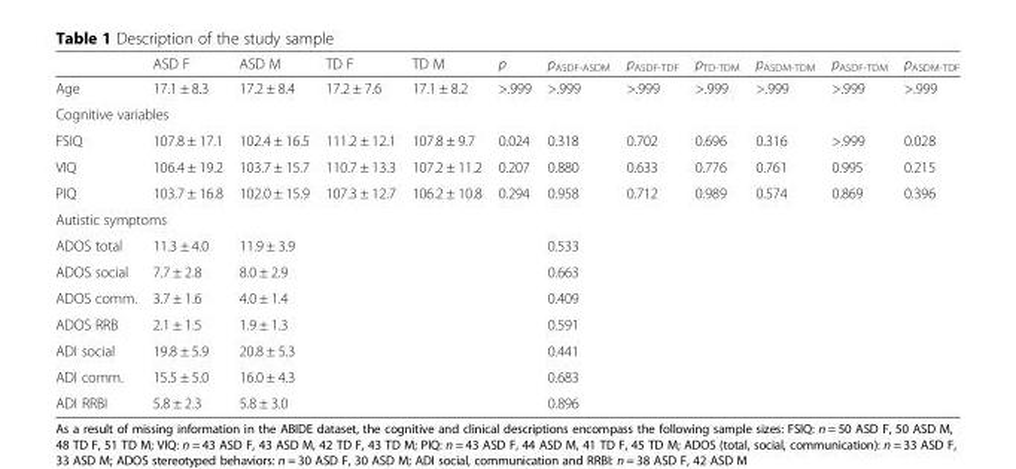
<table><thead><tr><td></td><td>ASD F</td><td>ASD M</td><td>TD F</td><td>TD M</td><td>p</td><td>p<sub>ASDF-ASDM</sub></td><td>p<sub>ASDF-TDF</sub></td><td>p<sub>TD-TDM</sub></td><td>p<sub>ASDM-TDM</sub></td><td>p<sub>ASDF-TDM</sub></td><td>p<sub>ASDM-TDF</sub></td></tr></thead><tbody><tr><td>Age</td><td>17.1 ± 8.3</td><td>17.2 ± 8.4</td><td>17.2 ± 7.6</td><td>17.1 ± 8.2</td><td>&gt;.999</td><td>&gt;.999</td><td>&gt;.999</td><td>&gt;.999</td><td>&gt;.999</td><td>&gt;.999</td><td>&gt;.999</td></tr><tr><td colspan="12">Cognitive variables</td></tr><tr><td>FSIQ</td><td>107.8 ± 17.1</td><td>102.4 ± 16.5</td><td>111.2 ± 12.1</td><td>107.8 ± 9.7</td><td>0.024</td><td>0.318</td><td>0.702</td><td>0.696</td><td>0.316</td><td>&gt;.999</td><td>0.028</td></tr><tr><td>VIQ</td><td>106.4 ± 19.2</td><td>103.7 ± 15.7</td><td>110.7 ± 13.3</td><td>107.2 ± 11.2</td><td>0.207</td><td>0.880</td><td>0.633</td><td>0.776</td><td>0.761</td><td>0.995</td><td>0.215</td></tr><tr><td>PIQ</td><td>103.7 ± 16.8</td><td>102.0 ± 15.9</td><td>107.3 ± 12.7</td><td>106.2 ± 10.8</td><td>0.294</td><td>0.958</td><td>0.712</td><td>0.989</td><td>0.574</td><td>0.869</td><td>0.396</td></tr><tr><td colspan="12">Autistic symptoms</td></tr><tr><td>ADOS total</td><td>11.3 ± 4.0</td><td>11.9 ± 3.9</td><td></td><td></td><td></td><td>0.533</td><td></td><td></td><td></td><td></td><td></td></tr><tr><td>ADOS social</td><td>7.7 ± 2.8</td><td>8.0 ± 2.9</td><td></td><td></td><td></td><td>0.663</td><td></td><td></td><td></td><td></td><td></td></tr><tr><td>ADOS comm.</td><td>3.7 ± 1.6</td><td>4.0 ± 1.4</td><td></td><td></td><td></td><td>0.409</td><td></td><td></td><td></td><td></td><td></td></tr><tr><td>ADOS RRB</td><td>2.1 ± 1.5</td><td>1.9 ± 1.3</td><td></td><td></td><td></td><td>0.591</td><td></td><td></td><td></td><td></td><td></td></tr><tr><td>ADI social</td><td>19.8 ± 5.9</td><td>20.8 ± 5.3</td><td></td><td></td><td></td><td>0.441</td><td></td><td></td><td></td><td></td><td></td></tr><tr><td>ADI comm.</td><td>15.5 ± 5.0</td><td>16.0 ± 4.3</td><td></td><td></td><td></td><td>0.683</td><td></td><td></td><td></td><td></td><td></td></tr><tr><td>ADI RRBI</td><td>5.8 ± 2.3</td><td>5.8 ± 3.0</td><td></td><td></td><td></td><td>0.896</td><td></td><td></td><td></td><td></td><td></td></tr></tbody></table>